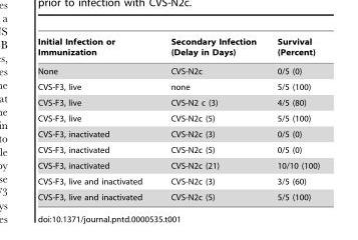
<table><thead><tr><td>Initial Infection or Immunization</td><td>Secondary Infection (Delay in Days)</td><td>Survival (Percent)</td></tr></thead><tbody><tr><td>None</td><td>CVS-N2c</td><td>0/5 (0)</td></tr><tr><td>CVS-F3, live</td><td>none</td><td>5/5 (100)</td></tr><tr><td>CVS-F3, live</td><td>CVS-N2 c (3)</td><td>4/5 (80)</td></tr><tr><td>CVS-F3, live</td><td>CVS-N2c (5)</td><td>5/5 (100)</td></tr><tr><td>CVS-F3, inactivated</td><td>CVS-N2c (3)</td><td>0/5 (0)</td></tr><tr><td>CVS-F3, inactivated</td><td>CVS-N2c (5)</td><td>0/5 (0)</td></tr><tr><td>CVS-F3, inactivated</td><td>CVS-N2c (21)</td><td>10/10 (100)</td></tr><tr><td>CVS-F3, live and inactivated</td><td>CVS-N2c (3)</td><td>3/5 (60)</td></tr><tr><td>CVS-F3, live and inactivated</td><td>CVS-N2c (5)</td><td>5/5 (100)</td></tr></tbody></table>